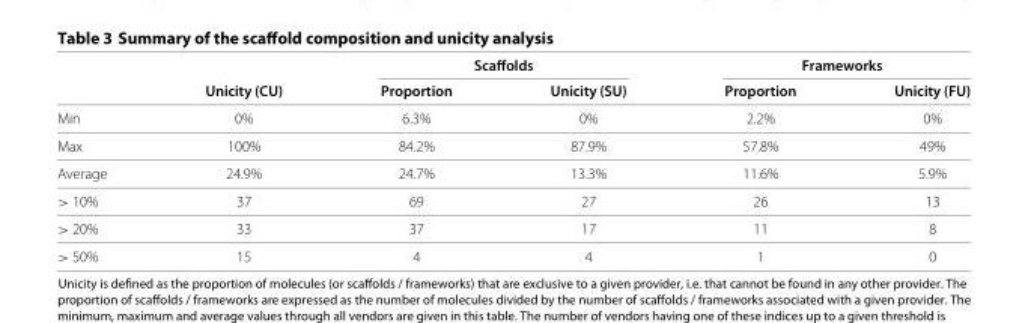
<table><thead><tr><td rowspan="2"></td><td rowspan="2">Unicity (CU)</td><td colspan="2">Scaffolds</td><td colspan="2">Frameworks</td></tr><tr><td>Proportion</td><td>Unicity (SU)</td><td>Proportion</td><td>Unicity (FU)</td></tr></thead><tbody><tr><td>Min</td><td>0%</td><td>6.3%</td><td>0%</td><td>2.2%</td><td>0%</td></tr><tr><td>Max</td><td>100%</td><td>84.2%</td><td>87.9%</td><td>57.8%</td><td>49%</td></tr><tr><td>Average</td><td>24.9%</td><td>24.7%</td><td>13.3%</td><td>11.6%</td><td>5.9%</td></tr><tr><td>&gt; 10%</td><td>37</td><td>69</td><td>27</td><td>26</td><td>13</td></tr><tr><td>&gt; 20%</td><td>33</td><td>37</td><td>17</td><td>11</td><td>8</td></tr><tr><td>&gt; 50%</td><td>15</td><td>4</td><td>4</td><td>1</td><td>0</td></tr></tbody></table>